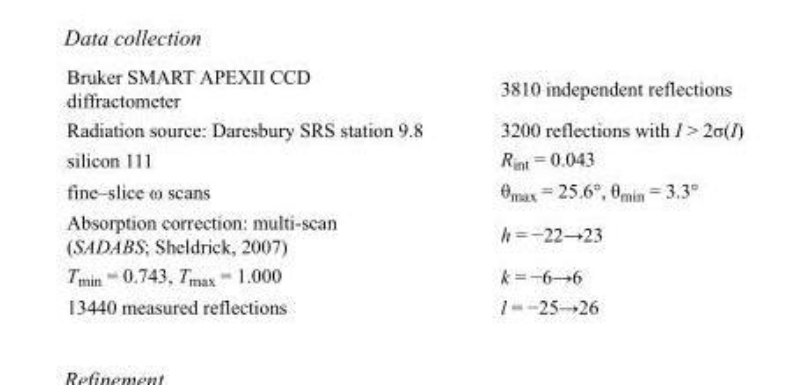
<table><tbody><tr><td>Bruker SMART APEXII CCD diffractometer</td><td>3810 independent reflections</td></tr><tr><td>Radiation source: Daresbury SRS station 9.8</td><td>3200 reflections with I &gt; 2σ(I)</td></tr><tr><td>silicon 111</td><td>R<sub>int</sub> = 0.043</td></tr><tr><td>fine–slice ω scans</td><td>θ<sub>max</sub> = 25.6°, θ<sub>min</sub> = 3.3°</td></tr><tr><td>Absorption correction: multi-scan (SADABS; Sheldrick, 2007)</td><td>h = −22→23</td></tr><tr><td>T<sub>min</sub> = 0.743, T<sub>max</sub> = 1.000</td><td>k = −6→6</td></tr><tr><td>13440 measured reflections</td><td>l = −25→26</td></tr></tbody></table>